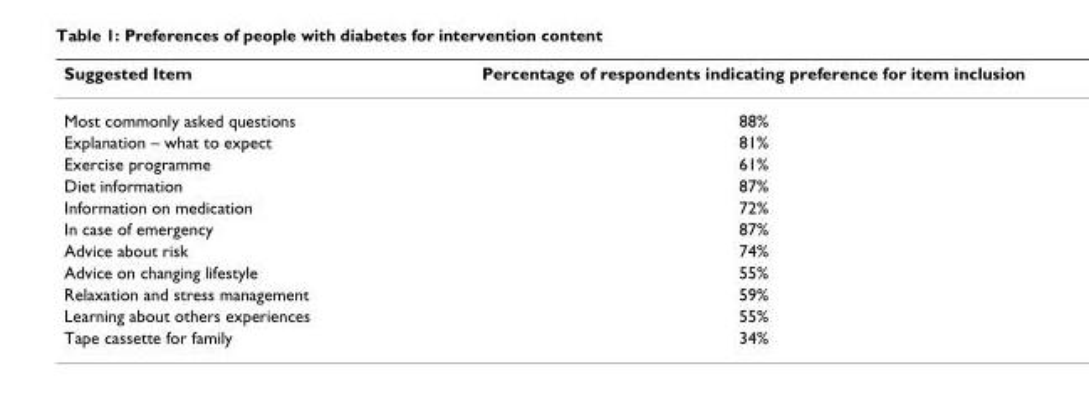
<table><thead><tr><td>Suggested Item</td><td>Percentage of respondents indicating preference for item inclusion</td></tr></thead><tbody><tr><td>Most commonly asked questions</td><td>88%</td></tr><tr><td>Explanation – what to expect</td><td>81%</td></tr><tr><td>Exercise programme</td><td>61%</td></tr><tr><td>Diet information</td><td>87%</td></tr><tr><td>Information on medication</td><td>72%</td></tr><tr><td>In case of emergency</td><td>87%</td></tr><tr><td>Advice about risk</td><td>74%</td></tr><tr><td>Advice on changing lifestyle</td><td>55%</td></tr><tr><td>Relaxation and stress management</td><td>59%</td></tr><tr><td>Learning about others experiences</td><td>55%</td></tr><tr><td>Tape cassette for family</td><td>34%</td></tr></tbody></table>